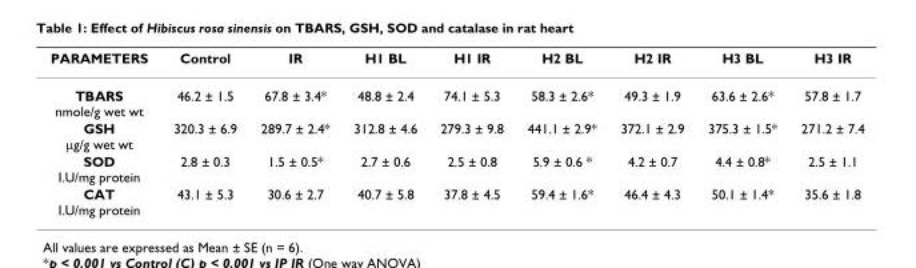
<table><thead><tr><td>PARAMETERS</td><td>Control</td><td>IR</td><td>H1 BL</td><td>H1 IR</td><td>H2 BL</td><td>H2 IR</td><td>H3 BL</td><td>H3 IR</td></tr></thead><tbody><tr><td>TBARS nmole/g wet wt</td><td>46.2 ± 1.5</td><td>67.8 ± 3.4*</td><td>48.8 ± 2.4</td><td>74.1 ± 5.3</td><td>58.3 ± 2.6*</td><td>49.3 ± 1.9</td><td>63.6 ± 2.6*</td><td>57.8 ± 1.7</td></tr><tr><td>GSH µg/g wet wt</td><td>320.3 ± 6.9</td><td>289.7 ± 2.4*</td><td>312.8 ± 4.6</td><td>279.3 ± 9.8</td><td>441.1 ± 2.9*</td><td>372.1 ± 2.9</td><td>375.3 ± 1.5*</td><td>271.2 ± 7.4</td></tr><tr><td>SOD I.U/mg protein</td><td>2.8 ± 0.3</td><td>1.5 ± 0.5*</td><td>2.7 ± 0.6</td><td>2.5 ± 0.8</td><td>5.9 ± 0.6 *</td><td>4.2 ± 0.7</td><td>4.4 ± 0.8*</td><td>2.5 ± 1.1</td></tr><tr><td>CAT I.U/mg protein</td><td>43.1 ± 5.3</td><td>30.6 ± 2.7</td><td>40.7 ± 5.8</td><td>37.8 ± 4.5</td><td>59.4 ± 1.6*</td><td>46.4 ± 4.3</td><td>50.1 ± 1.4*</td><td>35.6 ± 1.8</td></tr></tbody></table>